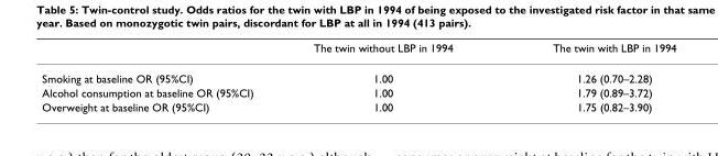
<table><thead><tr><td></td><td>The twin without LBP in 1994</td><td>The twin with LBP in 1994</td></tr></thead><tbody><tr><td>Smoking at baseline OR (95%CI)</td><td>1.00</td><td>1.26 (0.70–2.28)</td></tr><tr><td>Alcohol consumption at baseline OR (95%CI)</td><td>1.00</td><td>1.79 (0.89–3.72)</td></tr><tr><td>Overweight at baseline OR (95%CI)</td><td>1.00</td><td>1.75 (0.82–3.90)</td></tr></tbody></table>